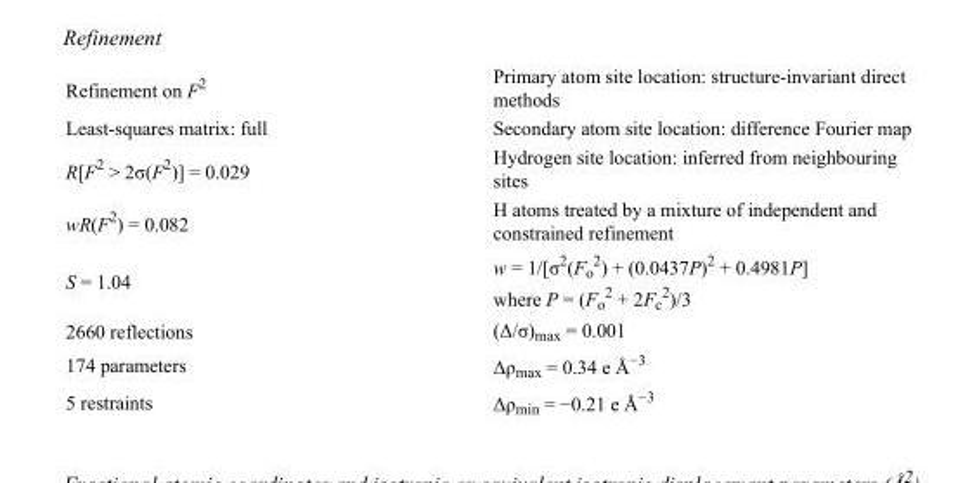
<table><tbody><tr><td>Refinement on F<sup>2</sup></td><td>Primary atom site location: structure-invariant direct methods</td></tr><tr><td>Least-squares matrix: full</td><td>Secondary atom site location: difference Fourier map</td></tr><tr><td>R[F<sup>2</sup> &gt; 2σ(F<sup>2</sup>)] = 0.029</td><td>Hydrogen site location: inferred from neighbouring sites</td></tr><tr><td>wR(F<sup>2</sup>) = 0.082</td><td>H atoms treated by a mixture of independent and constrained refinement</td></tr><tr><td>S = 1.04</td><td>w = 1/[σ<sup>2</sup>(F<sub>o</sub> <sup>2</sup>) + (0.0437P)<sup>2</sup> + 0.4981P] where P = (F<sub>o</sub> <sup>2</sup> + 2F<sub>c</sub> <sup>2</sup>)/3</td></tr><tr><td>2660 reflections</td><td>(Δ/σ)<sub>max</sub> = 0.001</td></tr><tr><td>174 parameters</td><td>Δρ<sub>max</sub> = 0.34 e Å<sup>−3</sup></td></tr><tr><td>5 restraints</td><td>Δρ<sub>min</sub> = −0.21 e Å<sup>−3</sup></td></tr></tbody></table>